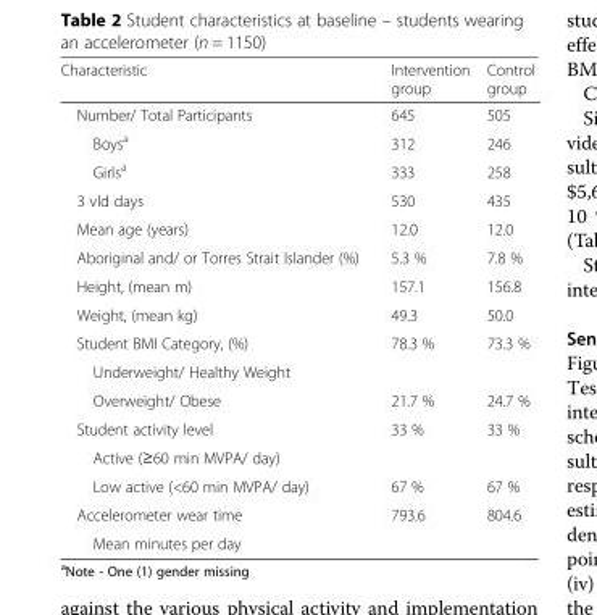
<table><thead><tr><td>Characteristic</td><td>Intervention group</td><td>Control group</td></tr></thead><tbody><tr><td>Number/ Total Participants</td><td>645</td><td>505</td></tr><tr><td>Boys<sup>a</sup></td><td>312</td><td>246</td></tr><tr><td>Girls<sup>a</sup></td><td>333</td><td>258</td></tr><tr><td>3 vld days</td><td>530</td><td>435</td></tr><tr><td>Mean age (years)</td><td>12.0</td><td>12.0</td></tr><tr><td>Aboriginal and/ or Torres Strait Islander (%)</td><td>5.3 %</td><td>7.8 %</td></tr><tr><td>Height, (mean m)</td><td>157.1</td><td>156.8</td></tr><tr><td>Weight, (mean kg)</td><td>49.3</td><td>50.0</td></tr><tr><td>Student BMI Category, (%)</td><td rowspan="2">78.3 %</td><td rowspan="2">73.3 %</td></tr><tr><td>Underweight/ Healthy Weight</td></tr><tr><td>Overweight/ Obese</td><td>21.7 %</td><td>24.7 %</td></tr><tr><td>Student activity level</td><td rowspan="2">33 %</td><td rowspan="2">33 %</td></tr><tr><td>Active (≥60 min MVPA/ day)</td></tr><tr><td>Low active (&lt;60 min MVPA/ day)</td><td>67 %</td><td>67 %</td></tr><tr><td>Accelerometer wear time</td><td>793.6</td><td>804.6</td></tr><tr><td>Mean minutes per day</td><td></td><td></td></tr></tbody></table>